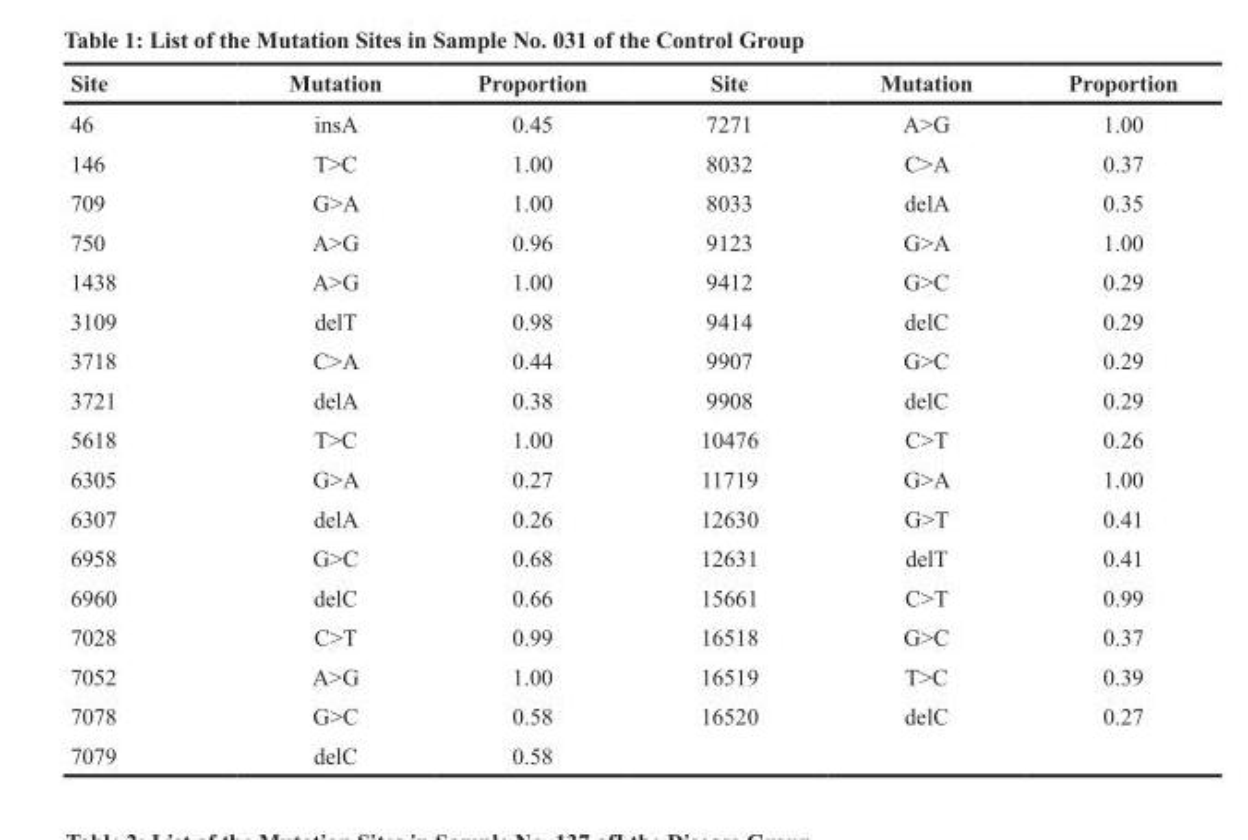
<table><thead><tr><td>Site</td><td>Mutation</td><td>Proportion</td><td>Site</td><td>Mutation</td><td>Proportion</td></tr></thead><tbody><tr><td>46</td><td>insA</td><td>0.45</td><td>7271</td><td>A&gt;G</td><td>1.00</td></tr><tr><td>146</td><td>T&gt;C</td><td>1.00</td><td>8032</td><td>C&gt;A</td><td>0.37</td></tr><tr><td>709</td><td>G&gt;A</td><td>1.00</td><td>8033</td><td>delA</td><td>0.35</td></tr><tr><td>750</td><td>A&gt;G</td><td>0.96</td><td>9123</td><td>G&gt;A</td><td>1.00</td></tr><tr><td>1438</td><td>A&gt;G</td><td>1.00</td><td>9412</td><td>G&gt;C</td><td>0.29</td></tr><tr><td>3109</td><td>delT</td><td>0.98</td><td>9414</td><td>delC</td><td>0.29</td></tr><tr><td>3718</td><td>C&gt;A</td><td>0.44</td><td>9907</td><td>G&gt;C</td><td>0.29</td></tr><tr><td>3721</td><td>delA</td><td>0.38</td><td>9908</td><td>delC</td><td>0.29</td></tr><tr><td>5618</td><td>T&gt;C</td><td>1.00</td><td>10476</td><td>C&gt;T</td><td>0.26</td></tr><tr><td>6305</td><td>G&gt;A</td><td>0.27</td><td>11719</td><td>G&gt;A</td><td>1.00</td></tr><tr><td>6307</td><td>delA</td><td>0.26</td><td>12630</td><td>G&gt;T</td><td>0.41</td></tr><tr><td>6958</td><td>G&gt;C</td><td>0.68</td><td>12631</td><td>delT</td><td>0.41</td></tr><tr><td>6960</td><td>delC</td><td>0.66</td><td>15661</td><td>C&gt;T</td><td>0.99</td></tr><tr><td>7028</td><td>C&gt;T</td><td>0.99</td><td>16518</td><td>G&gt;C</td><td>0.37</td></tr><tr><td>7052</td><td>A&gt;G</td><td>1.00</td><td>16519</td><td>T&gt;C</td><td>0.39</td></tr><tr><td>7078</td><td>G&gt;C</td><td>0.58</td><td>16520</td><td>delC</td><td>0.27</td></tr><tr><td>7079</td><td>delC</td><td>0.58</td><td></td><td></td><td></td></tr></tbody></table>